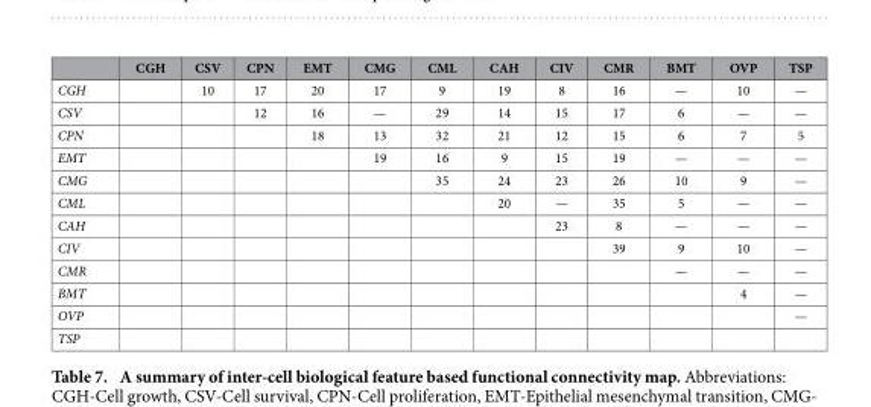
<table><thead><tr><td></td><td>CGH</td><td>CSV</td><td>CPN</td><td>EMT</td><td>CMG</td><td>CML</td><td>CAH</td><td>CIV</td><td>CMR</td><td>BMT</td><td>OVP</td><td>TSP</td></tr></thead><tbody><tr><td>CGH</td><td></td><td>10</td><td>17</td><td>20</td><td>17</td><td>9</td><td>19</td><td>8</td><td>16</td><td>—</td><td>10</td><td>—</td></tr><tr><td>CSV</td><td></td><td></td><td>12</td><td>16</td><td>—</td><td>29</td><td>14</td><td>15</td><td>17</td><td>6</td><td>—</td><td>—</td></tr><tr><td>CPN</td><td></td><td></td><td></td><td>18</td><td>13</td><td>32</td><td>21</td><td>12</td><td>15</td><td>6</td><td>7</td><td>5</td></tr><tr><td>EMT</td><td></td><td></td><td></td><td></td><td>19</td><td>16</td><td>9</td><td>15</td><td>19</td><td>—</td><td>—</td><td>—</td></tr><tr><td>CMG</td><td></td><td></td><td></td><td></td><td></td><td>35</td><td>24</td><td>23</td><td>26</td><td>10</td><td>9</td><td>—</td></tr><tr><td>CML</td><td></td><td></td><td></td><td></td><td></td><td></td><td>20</td><td>—</td><td>35</td><td>5</td><td>—</td><td>—</td></tr><tr><td>CAH</td><td></td><td></td><td></td><td></td><td></td><td></td><td></td><td>23</td><td>8</td><td>—</td><td>—</td><td>—</td></tr><tr><td>CIV</td><td></td><td></td><td></td><td></td><td></td><td></td><td></td><td></td><td>39</td><td>9</td><td>10</td><td>—</td></tr><tr><td>CMR</td><td></td><td></td><td></td><td></td><td></td><td></td><td></td><td></td><td></td><td>—</td><td>—</td><td>—</td></tr><tr><td>BMT</td><td></td><td></td><td></td><td></td><td></td><td></td><td></td><td></td><td></td><td></td><td>4</td><td>—</td></tr><tr><td>OVP</td><td></td><td></td><td></td><td></td><td></td><td></td><td></td><td></td><td></td><td></td><td></td><td>—</td></tr><tr><td>TSP</td><td></td><td></td><td></td><td></td><td></td><td></td><td></td><td></td><td></td><td></td><td></td><td></td></tr></tbody></table>